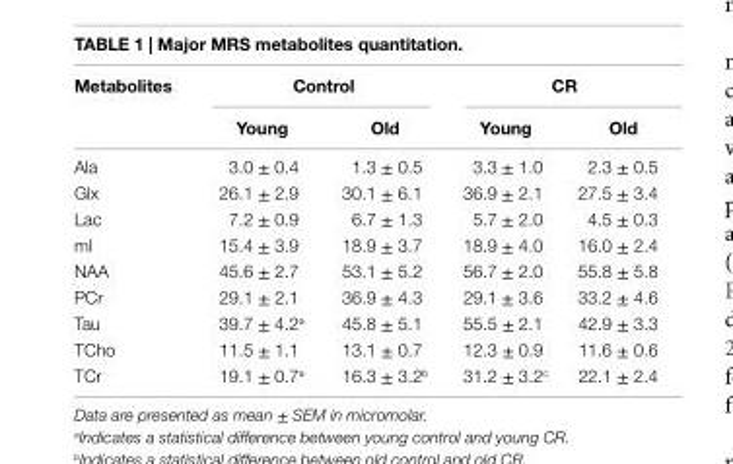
<table><thead><tr><td rowspan="2">Metabolites</td><td colspan="2">control</td><td colspan="2">cr</td></tr><tr><td>Young</td><td>Old</td><td>Young</td><td>Old</td></tr></thead><tbody><tr><td>Ala</td><td>3.0 ± 0.4</td><td>1.3 ± 0.5</td><td>3.3 ± 1.0</td><td>2.3 ± 0.5</td></tr><tr><td>Glx</td><td>26.1 ± 2.9</td><td>30.1 ± 6.1</td><td>36.9 ± 2.1</td><td>27.5 ± 3.4</td></tr><tr><td>Lac</td><td>7.2 ± 0.9</td><td>6.7 ± 1.3</td><td>5.7 ± 2.0</td><td>4.5 ± 0.3</td></tr><tr><td>mI</td><td>15.4 ± 3.9</td><td>18.9 ± 3.7</td><td>18.9 ± 4.0</td><td>16.0 ± 2.4</td></tr><tr><td>NAA</td><td>45.6 ± 2.7</td><td>53.1 ± 5.2</td><td>56.7 ± 2.0</td><td>55.8 ± 5.8</td></tr><tr><td>PCr</td><td>29.1 ± 2.1</td><td>36.9 ± 4.3</td><td>29.1 ± 3.6</td><td>33.2 ± 4.6</td></tr><tr><td>Tau</td><td>39.7 ± 4.2<sup>a</sup></td><td>45.8 ± 5.1</td><td>55.5 ± 2.1</td><td>42.9 ± 3.3</td></tr><tr><td>TCho</td><td>11.5 ± 1.1</td><td>13.1 ± 0.7</td><td>12.3 ± 0.9</td><td>11.6 ± 0.6</td></tr><tr><td>TCr</td><td>19.1 ± 0.7<sup>a</sup></td><td>16.3 ± 3.2<sup>b</sup></td><td>31.2 ± 3.2<sup>c</sup></td><td>22.1 ± 2.4</td></tr></tbody></table>